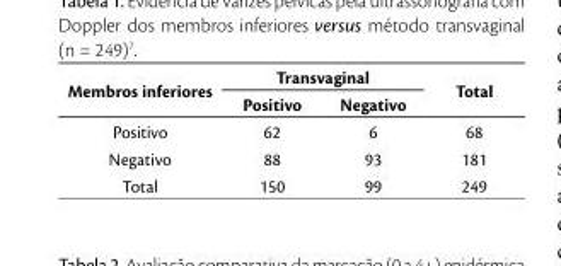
<table><thead><tr><td rowspan="2">Membros inferiores</td><td colspan="2">Transvaginal</td><td rowspan="2">Total</td></tr><tr><td>Positivo</td><td>Negativo</td></tr></thead><tbody><tr><td>Positivo</td><td>62</td><td>6</td><td>68</td></tr><tr><td>Negativo</td><td>88</td><td>93</td><td>181</td></tr><tr><td>Total</td><td>150</td><td>99</td><td>249</td></tr></tbody></table>